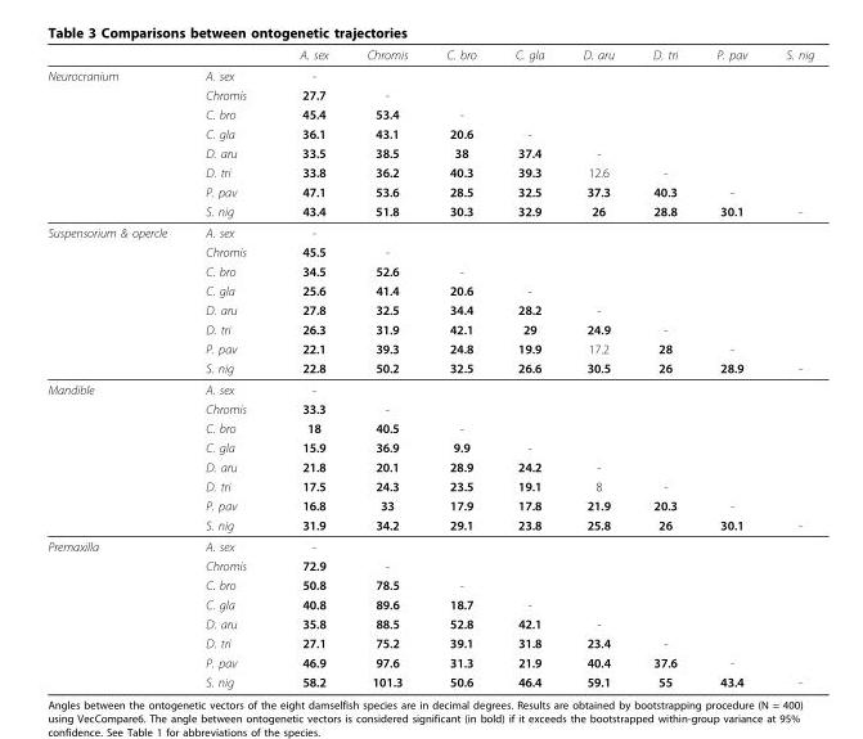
<table><thead><tr><td></td><td></td><td>A. sex</td><td>Chromis</td><td>C. bro</td><td>C. gla</td><td>D. aru</td><td>D. tri</td><td>P. pav</td><td>S. nig</td></tr></thead><tbody><tr><td rowspan="8">Neurocranium</td><td>A. sex</td><td>-</td><td></td><td></td><td></td><td></td><td></td><td></td><td></td></tr><tr><td>Chromis</td><td>27.7</td><td>-</td><td></td><td></td><td></td><td></td><td></td><td></td></tr><tr><td>C. bro</td><td>45.4</td><td>53.4</td><td>-</td><td></td><td></td><td></td><td></td><td></td></tr><tr><td>C. gla</td><td>36.1</td><td>43.1</td><td>20.6</td><td>-</td><td></td><td></td><td></td><td></td></tr><tr><td>D. aru</td><td>33.5</td><td>38.5</td><td>38</td><td>37.4</td><td>-</td><td></td><td></td><td></td></tr><tr><td>D. tri</td><td>33.8</td><td>36.2</td><td>40.3</td><td>39.3</td><td>12.6</td><td>-</td><td></td><td></td></tr><tr><td>P. pav</td><td>47.1</td><td>53.6</td><td>28.5</td><td>32.5</td><td>37.3</td><td>40.3</td><td>-</td><td></td></tr><tr><td>S. nig</td><td>43.4</td><td>51.8</td><td>30.3</td><td>32.9</td><td>26</td><td>28.8</td><td>30.1</td><td>-</td></tr><tr><td rowspan="8">Suspensorium &amp; opercle</td><td>A. sex</td><td>-</td><td></td><td></td><td></td><td></td><td></td><td></td><td></td></tr><tr><td>Chromis</td><td>45.5</td><td>-</td><td></td><td></td><td></td><td></td><td></td><td></td></tr><tr><td>C. bro</td><td>34.5</td><td>52.6</td><td>-</td><td></td><td></td><td></td><td></td><td></td></tr><tr><td>C. gla</td><td>25.6</td><td>41.4</td><td>20.6</td><td>-</td><td></td><td></td><td></td><td></td></tr><tr><td>D. aru</td><td>27.8</td><td>32.5</td><td>34.4</td><td>28.2</td><td>-</td><td></td><td></td><td></td></tr><tr><td>D. tri</td><td>26.3</td><td>31.9</td><td>42.1</td><td>29</td><td>24.9</td><td>-</td><td></td><td></td></tr><tr><td>P. pav</td><td>22.1</td><td>39.3</td><td>24.8</td><td>19.9</td><td>17.2</td><td>28</td><td>-</td><td></td></tr><tr><td>S. nig</td><td>22.8</td><td>50.2</td><td>32.5</td><td>26.6</td><td>30.5</td><td>26</td><td>28.9</td><td>-</td></tr><tr><td rowspan="8">Mandible</td><td>A. sex</td><td>-</td><td></td><td></td><td></td><td></td><td></td><td></td><td></td></tr><tr><td>Chromis</td><td>33.3</td><td>-</td><td></td><td></td><td></td><td></td><td></td><td></td></tr><tr><td>C. bro</td><td>18</td><td>40.5</td><td>-</td><td></td><td></td><td></td><td></td><td></td></tr><tr><td>C. gla</td><td>15.9</td><td>36.9</td><td>9.9</td><td>-</td><td></td><td></td><td></td><td></td></tr><tr><td>D. aru</td><td>21.8</td><td>20.1</td><td>28.9</td><td>24.2</td><td>-</td><td></td><td></td><td></td></tr><tr><td>D. tri</td><td>17.5</td><td>24.3</td><td>23.5</td><td>19.1</td><td>8</td><td>-</td><td></td><td></td></tr><tr><td>P. pav</td><td>16.8</td><td>33</td><td>17.9</td><td>17.8</td><td>21.9</td><td>20.3</td><td>-</td><td></td></tr><tr><td>S. nig</td><td>31.9</td><td>34.2</td><td>29.1</td><td>23.8</td><td>25.8</td><td>26</td><td>30.1</td><td>-</td></tr><tr><td rowspan="8">Premaxilla</td><td>A. sex</td><td>-</td><td></td><td></td><td></td><td></td><td></td><td></td><td></td></tr><tr><td>Chromis</td><td>72.9</td><td>-</td><td></td><td></td><td></td><td></td><td></td><td></td></tr><tr><td>C. bro</td><td>50.8</td><td>78.5</td><td>-</td><td></td><td></td><td></td><td></td><td></td></tr><tr><td>C. gla</td><td>40.8</td><td>89.6</td><td>18.7</td><td>-</td><td></td><td></td><td></td><td></td></tr><tr><td>D. aru</td><td>35.8</td><td>88.5</td><td>52.8</td><td>42.1</td><td>-</td><td></td><td></td><td></td></tr><tr><td>D. tri</td><td>27.1</td><td>75.2</td><td>39.1</td><td>31.8</td><td>23.4</td><td>-</td><td></td><td></td></tr><tr><td>P. pav</td><td>46.9</td><td>97.6</td><td>31.3</td><td>21.9</td><td>40.4</td><td>37.6</td><td>-</td><td></td></tr><tr><td>S. nig</td><td>58.2</td><td>101.3</td><td>50.6</td><td>46.4</td><td>59.1</td><td>55</td><td>43.4</td><td>-</td></tr></tbody></table>